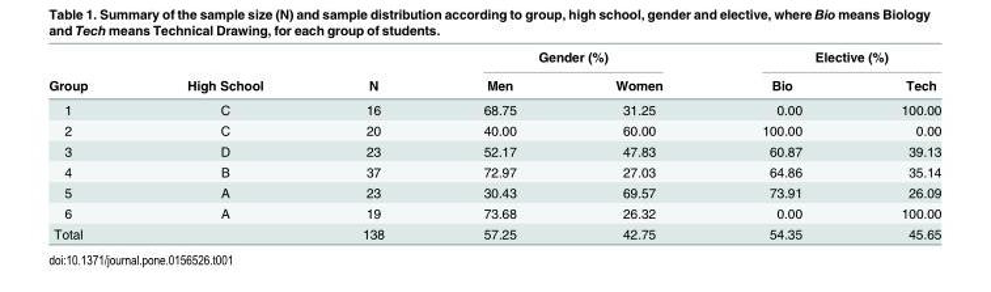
<table><thead><tr><td rowspan="2">Group</td><td rowspan="2">High School</td><td rowspan="2">N</td><td colspan="2">Gender (%)</td><td colspan="2">Elective (%)</td></tr><tr><td>Men</td><td>Women</td><td>Bio</td><td>Tech</td></tr></thead><tbody><tr><td>1</td><td>C</td><td>16</td><td>68.75</td><td>31.25</td><td>0.00</td><td>100.00</td></tr><tr><td>2</td><td>C</td><td>20</td><td>40.00</td><td>60.00</td><td>100.00</td><td>0.00</td></tr><tr><td>3</td><td>D</td><td>23</td><td>52.17</td><td>47.83</td><td>60.87</td><td>39.13</td></tr><tr><td>4</td><td>B</td><td>37</td><td>72.97</td><td>27.03</td><td>64.86</td><td>35.14</td></tr><tr><td>5</td><td>A</td><td>23</td><td>30.43</td><td>69.57</td><td>73.91</td><td>26.09</td></tr><tr><td>6</td><td>A</td><td>19</td><td>73.68</td><td>26.32</td><td>0.00</td><td>100.00</td></tr><tr><td>Total</td><td></td><td>138</td><td>57.25</td><td>42.75</td><td>54.35</td><td>45.65</td></tr></tbody></table>